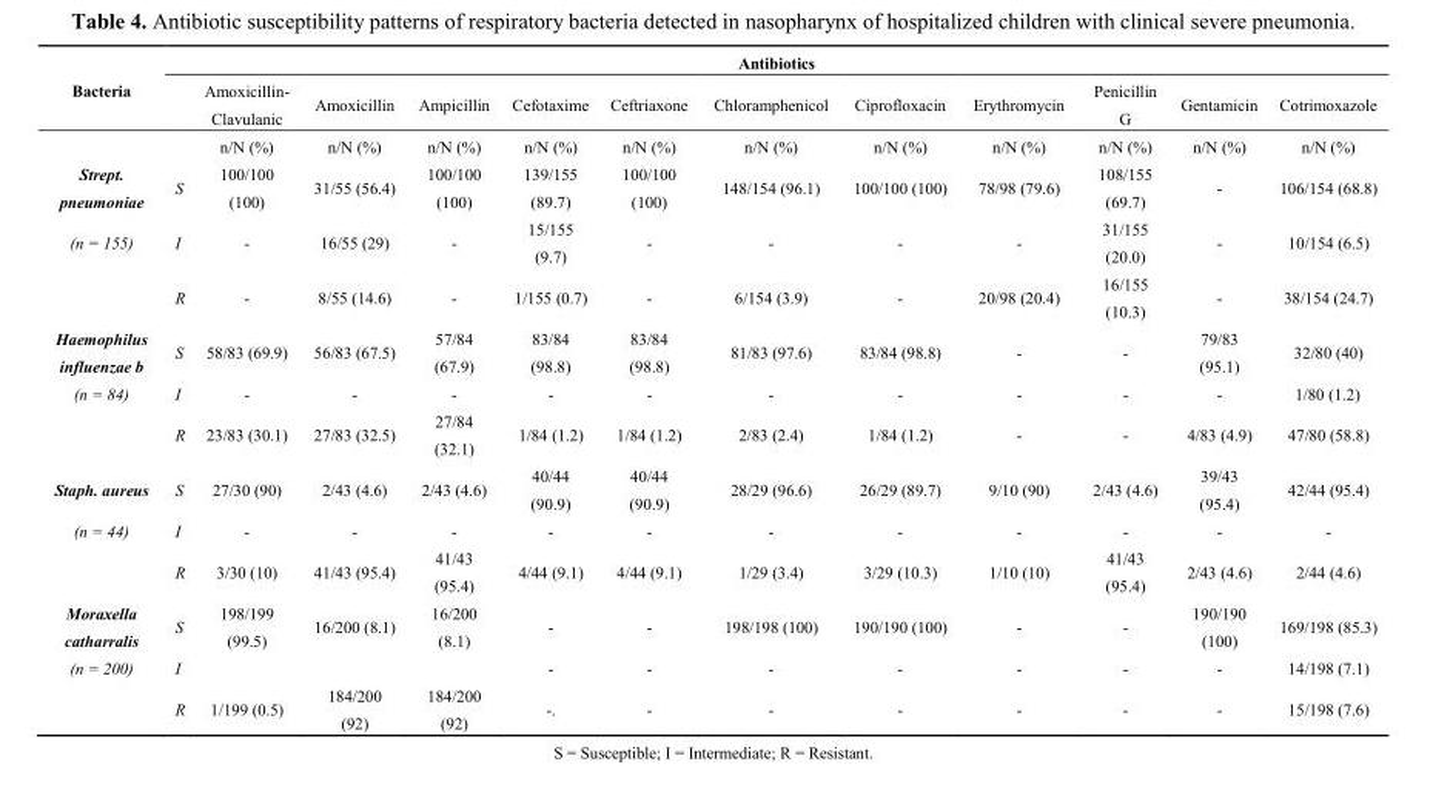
<table><thead><tr><td rowspan="2">Bacteria</td><td colspan="12">Antibiotics</td></tr><tr><td></td><td>Amoxicillin- Clavulanic</td><td>Amoxicillin</td><td>Ampicillin</td><td>Cefotaxime</td><td>Ceftriaxone</td><td>Chloramphenicol</td><td>Ciprofloxacin</td><td>Erythromycin</td><td>Penicillin G</td><td>Gentamicin</td><td>Cotrimoxazole</td></tr></thead><tbody><tr><td></td><td></td><td>n/N (%)</td><td>n/N (%)</td><td>n/N (%)</td><td>n/N (%)</td><td>n/N (%)</td><td>n/N (%)</td><td>n/N (%)</td><td>n/N (%)</td><td>n/N (%)</td><td>n/N (%)</td><td>n/N (%)</td></tr><tr><td>Strept. pneumoniae</td><td>S</td><td>100/100 (100)</td><td>31/55 (56.4)</td><td>100/100 (100)</td><td>139/155 (89.7)</td><td>100/100 (100)</td><td>148/154 (96.1)</td><td>100/100 (100)</td><td>78/98 (79.6)</td><td>108/155 (69.7)</td><td>-</td><td>106/154 (68.8)</td></tr><tr><td rowspan="2">(n = 155)</td><td>I</td><td>-</td><td>16/55 (29)</td><td>-</td><td>15/155 (9.7)</td><td>-</td><td>-</td><td>-</td><td>-</td><td>31/155 (20.0)</td><td>-</td><td>10/154 (6.5)</td></tr><tr><td>R</td><td>-</td><td>8/55 (14.6)</td><td>-</td><td>1/155 (0.7)</td><td>-</td><td>6/154 (3.9)</td><td>-</td><td>20/98 (20.4)</td><td>16/155 (10.3)</td><td>-</td><td>38/154 (24.7)</td></tr><tr><td>Haemophilus influenzae b</td><td>S</td><td>58/83 (69.9)</td><td>56/83 (67.5)</td><td>57/84 (67.9)</td><td>83/84 (98.8)</td><td>83/84 (98.8)</td><td>81/83 (97.6)</td><td>83/84 (98.8)</td><td>-</td><td>-</td><td>79/83 (95.1)</td><td>32/80 (40)</td></tr><tr><td rowspan="2">(n = 84)</td><td>I</td><td>-</td><td>-</td><td>-</td><td>-</td><td>-</td><td>-</td><td>-</td><td>-</td><td>-</td><td>-</td><td>1/80 (1.2)</td></tr><tr><td>R</td><td>23/83 (30.1)</td><td>27/83 (32.5)</td><td>27/84 (32.1)</td><td>1/84 (1.2)</td><td>1/84 (1.2)</td><td>2/83 (2.4)</td><td>1/84 (1.2)</td><td>-</td><td>-</td><td>4/83 (4.9)</td><td>47/80 (58.8)</td></tr><tr><td>Staph. aureus</td><td>S</td><td>27/30 (90)</td><td>2/43 (4.6)</td><td>2/43 (4.6)</td><td>40/44 (90.9)</td><td>40/44 (90.9)</td><td>28/29 (96.6)</td><td>26/29 (89.7)</td><td>9/10 (90)</td><td>2/43 (4.6)</td><td>39/43 (95.4)</td><td>42/44 (95.4)</td></tr><tr><td rowspan="2">(n = 44)</td><td>I</td><td>-</td><td>-</td><td>-</td><td>-</td><td>-</td><td>-</td><td>-</td><td>-</td><td>-</td><td>-</td><td>-</td></tr><tr><td>R</td><td>3/30 (10)</td><td>41/43 (95.4)</td><td>41/43 (95.4)</td><td>4/44 (9.1)</td><td>4/44 (9.1)</td><td>1/29 (3.4)</td><td>3/29 (10.3)</td><td>1/10 (10)</td><td>41/43 (95.4)</td><td>2/43 (4.6)</td><td>2/44 (4.6)</td></tr><tr><td>Moraxella catharralis</td><td>S</td><td>198/199 (99.5)</td><td>16/200 (8.1)</td><td>16/200 (8.1)</td><td>-</td><td>-</td><td>198/198 (100)</td><td>190/190 (100)</td><td>-</td><td>-</td><td>190/190 (100)</td><td>169/198 (85.3)</td></tr><tr><td rowspan="2">(n = 200)</td><td>I</td><td></td><td></td><td></td><td>-</td><td>-</td><td>-</td><td>-</td><td>-</td><td>-</td><td>-</td><td>14/198 (7.1)</td></tr><tr><td>R</td><td>1/199 (0.5)</td><td>184/200 (92)</td><td>184/200 (92)</td><td>-.</td><td>-</td><td>-</td><td>-</td><td>-</td><td>-</td><td>-</td><td>15/198 (7.6)</td></tr></tbody></table>